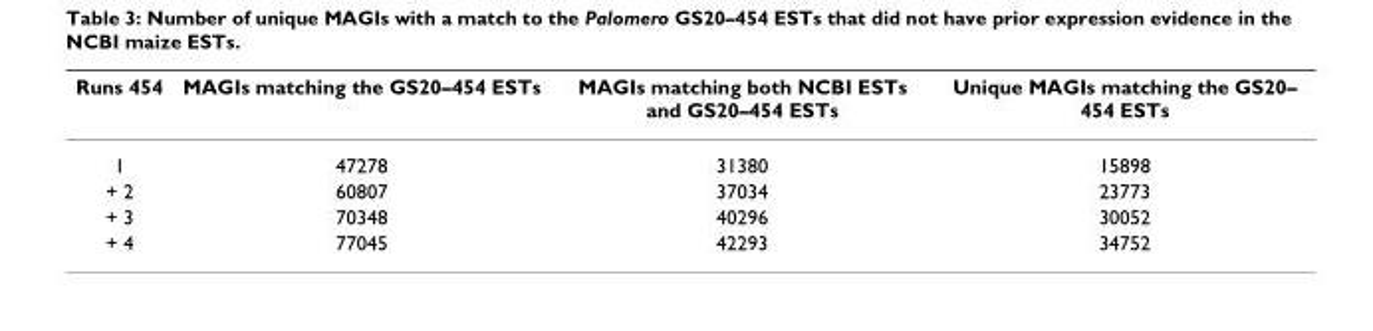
<table><thead><tr><td>Runs 454</td><td>MAGIs matching the GS20–454 ESTs</td><td>MAGIs matching both NCBI ESTs and GS20–454 ESTs</td><td>Unique MAGIs matching the GS20– 454 ESTs</td></tr></thead><tbody><tr><td>1</td><td>47278</td><td>31380</td><td>15898</td></tr><tr><td>+ 2</td><td>60807</td><td>37034</td><td>23773</td></tr><tr><td>+ 3</td><td>70348</td><td>40296</td><td>30052</td></tr><tr><td>+ 4</td><td>77045</td><td>42293</td><td>34752</td></tr></tbody></table>